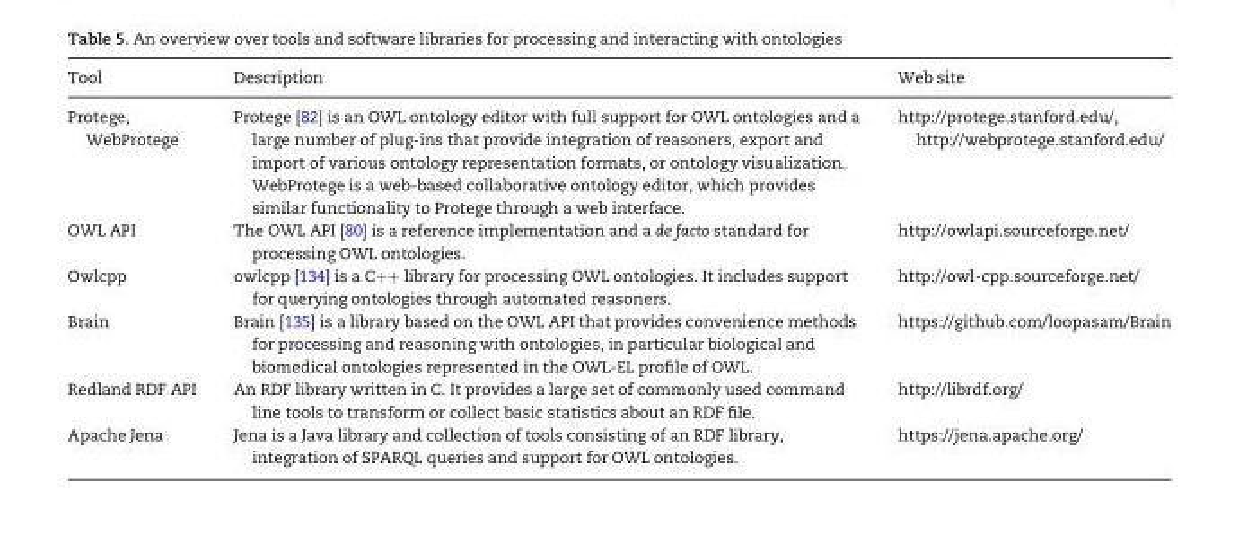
<table><thead><tr><td>Tool</td><td>Description</td><td>Web site</td></tr></thead><tbody><tr><td>Protege, WebProtege</td><td>Protege [82] is an OWL ontology editor with full support for OWL ontologies and a large number of plug-ins that provide integration of reasoners, export and import of various ontology representation formats, or ontology visualization. WebProtege is a web-based collaborative ontology editor, which provides similar functionality to Protege through a web interface.</td><td>http://protege.stanford.edu/, http://webprotege.stanford.edu/</td></tr><tr><td>OWL API</td><td>The OWL API [80] is a reference implementation and a de facto standard for processing OWL ontologies.</td><td>http://owlapi.sourceforge.net/</td></tr><tr><td>Owlcpp</td><td>owlcpp [134] is a C++ library for processing OWL ontologies. It includes support for querying ontologies through automated reasoners.</td><td>http://owl-cpp.sourceforge.net/</td></tr><tr><td>Brain</td><td>Brain [135] is a library based on the OWL API that provides convenience methods for processing and reasoning with ontologies, in particular biological and biomedical ontologies represented in the OWL-EL profile of OWL.</td><td>https://github.com/loopasam/Brain</td></tr><tr><td>Redland RDF API</td><td>An RDF library written in C. It provides a large set of commonly used command line tools to transform or collect basic statistics about an RDF file.</td><td>http://librdf.org/</td></tr><tr><td>Apache Jena</td><td>Jena is a Java library and collection of tools consisting of an RDF library, integration of SPARQL queries and support for OWL ontologies.</td><td>https://jena.apache.org/</td></tr></tbody></table>